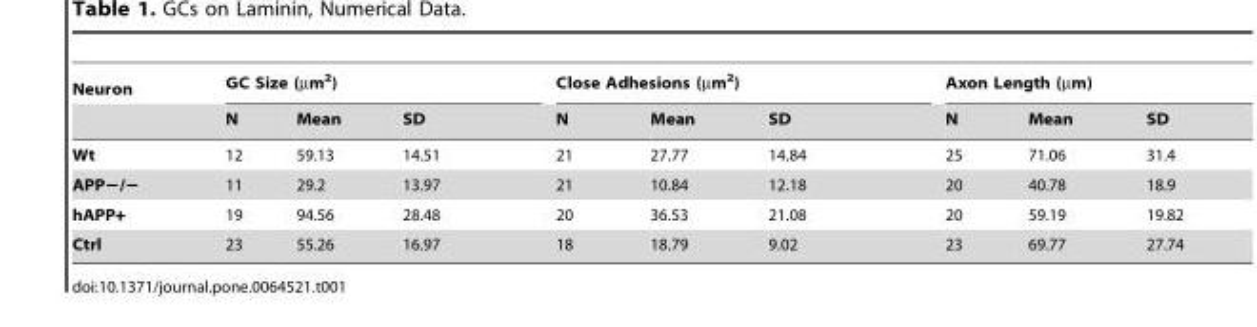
<table><thead><tr><td rowspan="2">Neuron</td><td colspan="3">GC Size (µm<sup>2</sup>)</td><td colspan="3">Close Adhesions (µm<sup>2</sup>)</td><td colspan="3">Axon Length (µm)</td></tr><tr><td>N</td><td>Mean</td><td>SD</td><td>N</td><td>Mean</td><td>SD</td><td>N</td><td>Mean</td><td>SD</td></tr></thead><tbody><tr><td>Wt</td><td>12</td><td>59.13</td><td>14.51</td><td>21</td><td>27.77</td><td>14.84</td><td>25</td><td>71.06</td><td>31.4</td></tr><tr><td>APP−/−</td><td>11</td><td>29.2</td><td>13.97</td><td>21</td><td>10.84</td><td>12.18</td><td>20</td><td>40.78</td><td>18.9</td></tr><tr><td>hAPP+</td><td>19</td><td>94.56</td><td>28.48</td><td>20</td><td>36.53</td><td>21.08</td><td>20</td><td>59.19</td><td>19.82</td></tr><tr><td>Ctrl</td><td>23</td><td>55.26</td><td>16.97</td><td>18</td><td>18.79</td><td>9.02</td><td>23</td><td>69.77</td><td>27.74</td></tr></tbody></table>